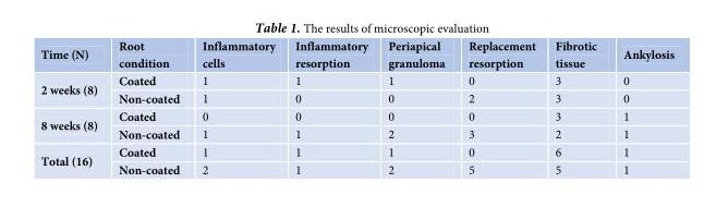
<table><thead><tr><td>Time (N)</td><td>Root condition</td><td>Inflammatory cells</td><td>Inflammatory resorption</td><td>Periapical granuloma</td><td>Replacement resorption</td><td>Fibrotic tissue</td><td>Ankylosis</td></tr></thead><tbody><tr><td rowspan="2">2 weeks (8)</td><td>Coated</td><td>1</td><td>1</td><td>1</td><td>0</td><td>3</td><td>0</td></tr><tr><td>Non-coated</td><td>1</td><td>0</td><td>0</td><td>2</td><td>3</td><td>0</td></tr><tr><td rowspan="2">8 weeks (8)</td><td>Coated</td><td>0</td><td>0</td><td>0</td><td>0</td><td>3</td><td>1</td></tr><tr><td>Non-coated</td><td>1</td><td>1</td><td>2</td><td>3</td><td>2</td><td>1</td></tr><tr><td rowspan="2">Total (16)</td><td>Coated</td><td>1</td><td>1</td><td>1</td><td>0</td><td>6</td><td>1</td></tr><tr><td>Non-coated</td><td>2</td><td>1</td><td>2</td><td>5</td><td>5</td><td>1</td></tr></tbody></table>